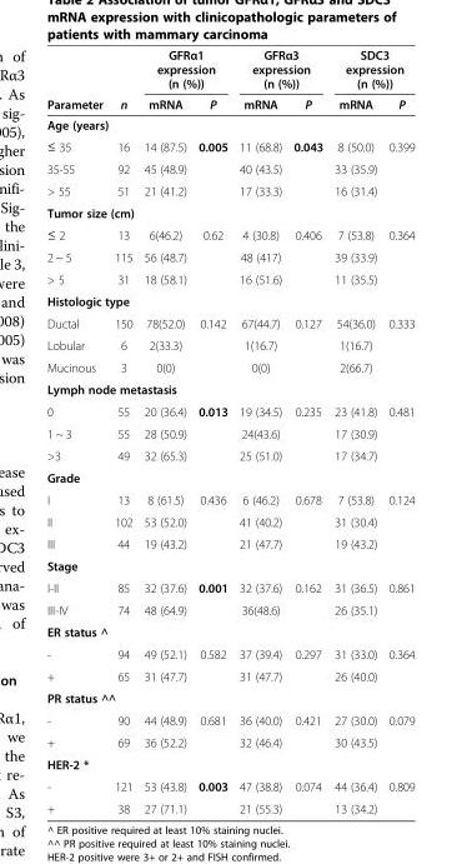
<table><thead><tr><td rowspan="2">Parameter</td><td rowspan="2">n</td><td colspan="2">GFRα1 expression (n (%))</td><td colspan="2">GFRα3 expression (n (%))</td><td colspan="2">SDC3 expression (n (%))</td></tr><tr><td>mRNA</td><td>P</td><td>mRNA</td><td>P</td><td>mRNA</td><td>P</td></tr></thead><tbody><tr><td colspan="8">Age (years)</td></tr><tr><td>≤ 35</td><td>16</td><td>14 (87.5)</td><td>0.005</td><td>11 (68.8)</td><td>0.043</td><td>8 (50.0)</td><td>0.399</td></tr><tr><td>35-55</td><td>92</td><td>45 (48.9)</td><td></td><td>40 (43.5)</td><td></td><td>33 (35.9)</td><td></td></tr><tr><td>&gt; 55</td><td>51</td><td>21 (41.2)</td><td></td><td>17 (33.3)</td><td></td><td>16 (31.4)</td><td></td></tr><tr><td colspan="8">Tumor size (cm)</td></tr><tr><td>≤ 2</td><td>13</td><td>6(46.2)</td><td>0.62</td><td>4 (30.8)</td><td>0.406</td><td>7 (53.8)</td><td>0.364</td></tr><tr><td>2 ~ 5</td><td>115</td><td>56 (48.7)</td><td></td><td>48 (417)</td><td></td><td>39 (33.9)</td><td></td></tr><tr><td>&gt; 5</td><td>31</td><td>18 (58.1)</td><td></td><td>16 (51.6)</td><td></td><td>11 (35.5)</td><td></td></tr><tr><td colspan="8">Histologic type</td></tr><tr><td>Ductal</td><td>150</td><td>78(52.0)</td><td>0.142</td><td>67(44.7)</td><td>0.127</td><td>54(36.0)</td><td>0.333</td></tr><tr><td>Lobular</td><td>6</td><td>2(33.3)</td><td></td><td>1(16.7)</td><td></td><td>1(16.7)</td><td></td></tr><tr><td>Mucinous</td><td>3</td><td>0(0)</td><td></td><td>0(0)</td><td></td><td>2(66.7)</td><td></td></tr><tr><td colspan="8">Lymph node metastasis</td></tr><tr><td>0</td><td>55</td><td>20 (36.4)</td><td>0.013</td><td>19 (34.5)</td><td>0.235</td><td>23 (41.8)</td><td>0.481</td></tr><tr><td>1 ~ 3</td><td>55</td><td>28 (50.9)</td><td></td><td>24(43.6)</td><td></td><td>17 (30.9)</td><td></td></tr><tr><td>&gt;3</td><td>49</td><td>32 (65.3)</td><td></td><td>25 (51.0)</td><td></td><td>17 (34.7)</td><td></td></tr><tr><td colspan="8">Grade</td></tr><tr><td>I</td><td>13</td><td>8 (61.5)</td><td>0.436</td><td>6 (46.2)</td><td>0.678</td><td>7 (53.8)</td><td>0.124</td></tr><tr><td>II</td><td>102</td><td>53 (52.0)</td><td></td><td>41 (40.2)</td><td></td><td>31 (30.4)</td><td></td></tr><tr><td>III</td><td>44</td><td>19 (43.2)</td><td></td><td>21 (47.7)</td><td></td><td>19 (43.2)</td><td></td></tr><tr><td colspan="8">Stage</td></tr><tr><td>I-II</td><td>85</td><td>32 (37.6)</td><td>0.001</td><td>32 (37.6)</td><td>0.162</td><td>31 (36.5)</td><td>0.861</td></tr><tr><td>III-IV</td><td>74</td><td>48 (64.9)</td><td></td><td>36(48.6)</td><td></td><td>26 (35.1)</td><td></td></tr><tr><td colspan="8">ER status ^</td></tr><tr><td>-</td><td>94</td><td>49 (52.1)</td><td>0.582</td><td>37 (39.4)</td><td>0.297</td><td>31 (33.0)</td><td>0.364</td></tr><tr><td>+</td><td>65</td><td>31 (47.7)</td><td></td><td>31 (47.7)</td><td></td><td>26 (40.0)</td><td></td></tr><tr><td colspan="8">PR status ^^</td></tr><tr><td>-</td><td>90</td><td>44 (48.9)</td><td>0.681</td><td>36 (40.0)</td><td>0.421</td><td>27 (30.0)</td><td>0.079</td></tr><tr><td>+</td><td>69</td><td>36 (52.2)</td><td></td><td>32 (46.4)</td><td></td><td>30 (43.5)</td><td></td></tr><tr><td colspan="8">HER-2 *</td></tr><tr><td>-</td><td>121</td><td>53 (43.8)</td><td>0.003</td><td>47 (38.8)</td><td>0.074</td><td>44 (36.4)</td><td>0.809</td></tr><tr><td>+</td><td>38</td><td>27 (71.1)</td><td></td><td>21 (55.3)</td><td></td><td>13 (34.2)</td><td></td></tr></tbody></table>